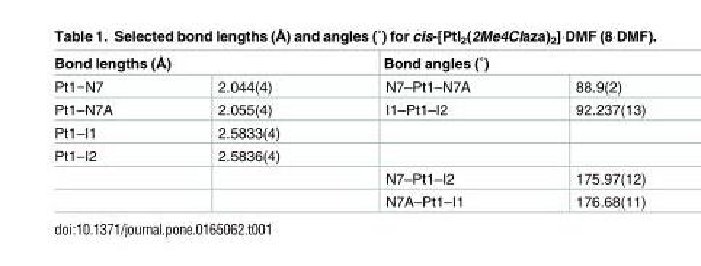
<table><thead><tr><td colspan="2">Bond lengths (Å)</td><td colspan="2">Bond angles (˚)</td></tr><tr><td>Pt1−N7</td><td>2.044(4)</td><td>N7–Pt1–N7A</td><td>88.9(2)</td></tr></thead><tbody><tr><td>Pt1–N7A</td><td>2.055(4)</td><td>I1–Pt1–I2</td><td>92.237(13)</td></tr><tr><td>Pt1–I1</td><td>2.5833(4)</td><td></td><td></td></tr><tr><td rowspan="3">Pt1–I2</td><td>2.5836(4)</td><td></td><td></td></tr><tr><td></td><td>N7–Pt1–I2</td><td>175.97(12)</td></tr><tr><td></td><td>N7A–Pt1–I1</td><td>176.68(11)</td></tr></tbody></table>